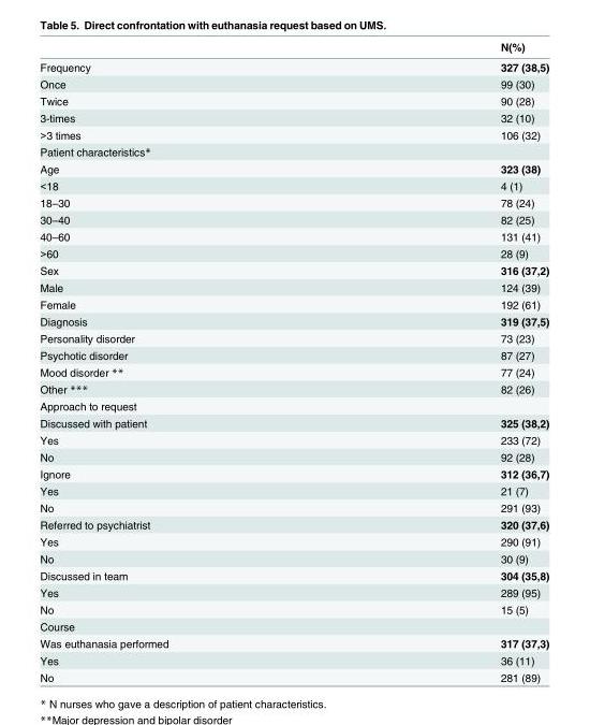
<table><thead><tr><td></td><td>N(%)</td></tr></thead><tbody><tr><td>Frequency</td><td>327 (38,5)</td></tr><tr><td>Once</td><td>99 (30)</td></tr><tr><td>Twice</td><td>90 (28)</td></tr><tr><td>3-times</td><td>32 (10)</td></tr><tr><td>&gt;3 times</td><td>106 (32)</td></tr><tr><td colspan="2">Patient characteristics*</td></tr><tr><td>Age</td><td>323 (38)</td></tr><tr><td>&lt;18</td><td>4 (1)</td></tr><tr><td>18–30</td><td>78 (24)</td></tr><tr><td>30–40</td><td>82 (25)</td></tr><tr><td>40–60</td><td>131 (41)</td></tr><tr><td>&gt;60</td><td>28 (9)</td></tr><tr><td>Sex</td><td>316 (37,2)</td></tr><tr><td>Male</td><td>124 (39)</td></tr><tr><td>Female</td><td>192 (61)</td></tr><tr><td>Diagnosis</td><td>319 (37,5)</td></tr><tr><td>Personality disorder</td><td>73 (23)</td></tr><tr><td>Psychotic disorder</td><td>87 (27)</td></tr><tr><td>Mood disorder **</td><td>77 (24)</td></tr><tr><td>Other ***</td><td>82 (26)</td></tr><tr><td colspan="2">Approach to request</td></tr><tr><td>Discussed with patient</td><td>325 (38,2)</td></tr><tr><td>Yes</td><td>233 (72)</td></tr><tr><td>No</td><td>92 (28)</td></tr><tr><td>Ignore</td><td>312 (36,7)</td></tr><tr><td>Yes</td><td>21 (7)</td></tr><tr><td>No</td><td>291 (93)</td></tr><tr><td>Referred to psychiatrist</td><td>320 (37,6)</td></tr><tr><td>Yes</td><td>290 (91)</td></tr><tr><td>No</td><td>30 (9)</td></tr><tr><td>Discussed in team</td><td>304 (35,8)</td></tr><tr><td>Yes</td><td>289 (95)</td></tr><tr><td>No</td><td>15 (5)</td></tr><tr><td colspan="2">Course</td></tr><tr><td>Was euthanasia performed</td><td>317 (37,3)</td></tr><tr><td>Yes</td><td>36 (11)</td></tr><tr><td>No</td><td>281 (89)</td></tr></tbody></table>